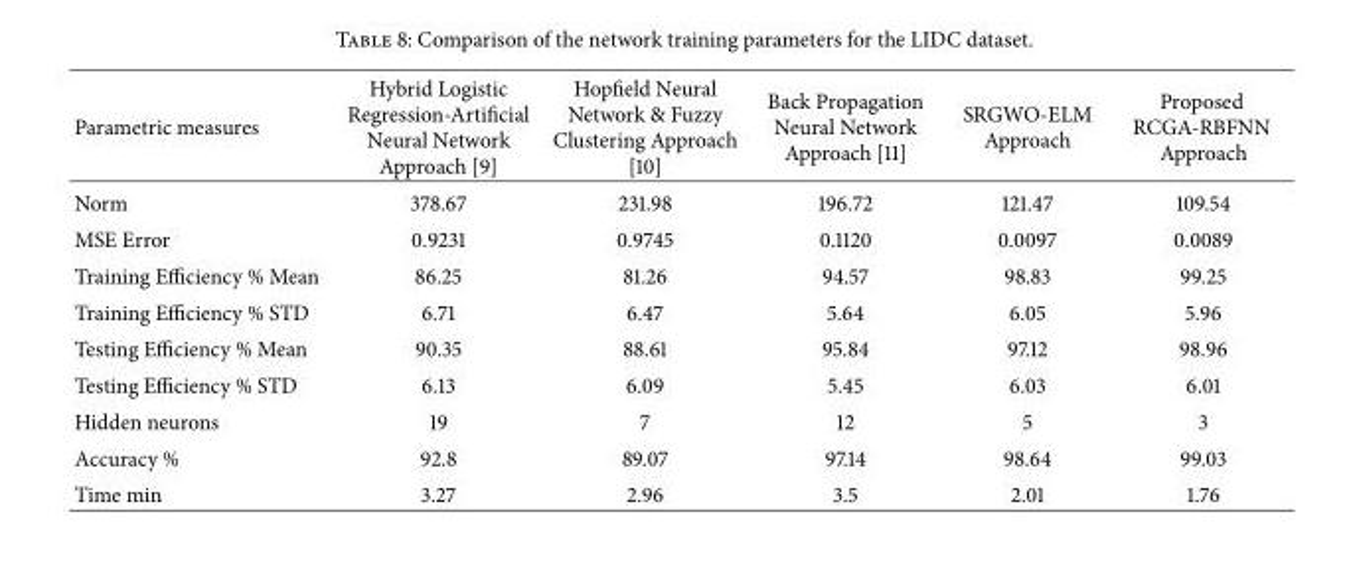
<table><thead><tr><td>Parametric measures</td><td>Hybrid Logistic Regression-Artificial Neural Network Approach [9]</td><td>Hopfield Neural Network &amp; Fuzzy Clustering Approach [10]</td><td>Back Propagation Neural Network Approach [11]</td><td>SRGWO-ELM Approach</td><td>Proposed RCGA-RBFNN Approach</td></tr></thead><tbody><tr><td>Norm</td><td>378.67</td><td>231.98</td><td>196.72</td><td>121.47</td><td>109.54</td></tr><tr><td>MSE Error</td><td>0.9231</td><td>0.9745</td><td>0.1120</td><td>0.0097</td><td>0.0089</td></tr><tr><td>Training Efficiency % Mean</td><td>86.25</td><td>81.26</td><td>94.57</td><td>98.83</td><td>99.25</td></tr><tr><td>Training Efficiency % STD</td><td>6.71</td><td>6.47</td><td>5.64</td><td>6.05</td><td>5.96</td></tr><tr><td>Testing Efficiency % Mean</td><td>90.35</td><td>88.61</td><td>95.84</td><td>97.12</td><td>98.96</td></tr><tr><td>Testing Efficiency % STD</td><td>6.13</td><td>6.09</td><td>5.45</td><td>6.03</td><td>6.01</td></tr><tr><td>Hidden neurons</td><td>19</td><td>7</td><td>12</td><td>5</td><td>3</td></tr><tr><td>Accuracy %</td><td>92.8</td><td>89.07</td><td>97.14</td><td>98.64</td><td>99.03</td></tr><tr><td>Time min</td><td>3.27</td><td>2.96</td><td>3.5</td><td>2.01</td><td>1.76</td></tr></tbody></table>